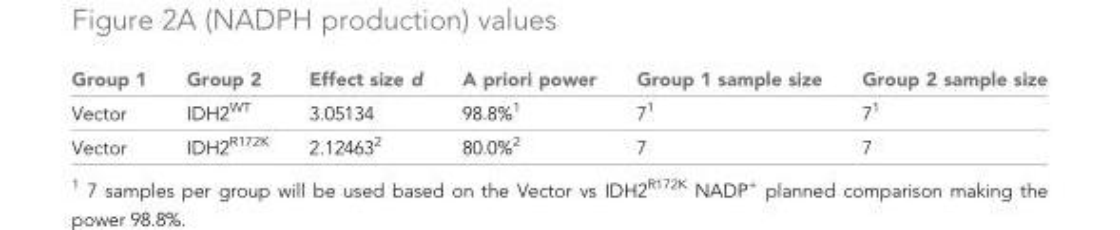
<table><thead><tr><td>Group 1</td><td>Group 2</td><td>Effect size d</td><td>A priori power</td><td>Group 1 sample size</td><td>Group 2 sample size</td></tr></thead><tbody><tr><td>Vector</td><td>IDH2<sup>WT</sup></td><td>3.05134</td><td>98.8%<sup>1</sup></td><td>7<sup>1</sup></td><td>7<sup>1</sup></td></tr><tr><td>Vector</td><td>IDH2<sup>R172K</sup></td><td>2.12463<sup>2</sup></td><td>80.0%<sup>2</sup></td><td>7</td><td>7</td></tr></tbody></table>